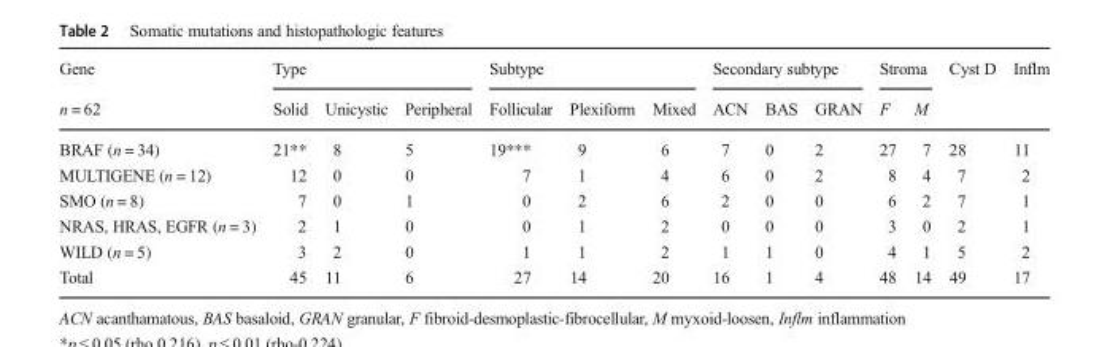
<table><thead><tr><td rowspan="2">Gene n = 62</td><td colspan="3">Type</td><td colspan="3">Subtype</td><td colspan="3">Secondary subtype</td><td colspan="2">Stroma</td><td rowspan="2">Cyst D</td><td rowspan="2">Inflm</td></tr><tr><td>Solid</td><td>Unicystic</td><td>Peripheral</td><td>Follicular</td><td>Plexiform</td><td>Mixed</td><td>ACN</td><td>BAS</td><td>GRAN</td><td>F</td><td>M</td></tr></thead><tbody><tr><td>BRAF (n = 34)</td><td>21**</td><td>8</td><td>5</td><td>19***</td><td>9</td><td>6</td><td>7</td><td>0</td><td>2</td><td>27</td><td>7</td><td>28</td><td>11</td></tr><tr><td>MULTIGENE (n = 12)</td><td>12</td><td>0</td><td>0</td><td>7</td><td>1</td><td>4</td><td>6</td><td>0</td><td>2</td><td>8</td><td>4</td><td>7</td><td>2</td></tr><tr><td>SMO (n = 8)</td><td>7</td><td>0</td><td>1</td><td>0</td><td>2</td><td>6</td><td>2</td><td>0</td><td>0</td><td>6</td><td>2</td><td>7</td><td>1</td></tr><tr><td>NRAS, HRAS, EGFR (n = 3)</td><td>2</td><td>1</td><td>0</td><td>0</td><td>1</td><td>2</td><td>0</td><td>0</td><td>0</td><td>3</td><td>0</td><td>2</td><td>1</td></tr><tr><td>WILD (n = 5)</td><td>3</td><td>2</td><td>0</td><td>1</td><td>1</td><td>2</td><td>1</td><td>1</td><td>0</td><td>4</td><td>1</td><td>5</td><td>2</td></tr><tr><td>Total</td><td>45</td><td>11</td><td>6</td><td>27</td><td>14</td><td>20</td><td>16</td><td>1</td><td>4</td><td>48</td><td>14</td><td>49</td><td>17</td></tr></tbody></table>